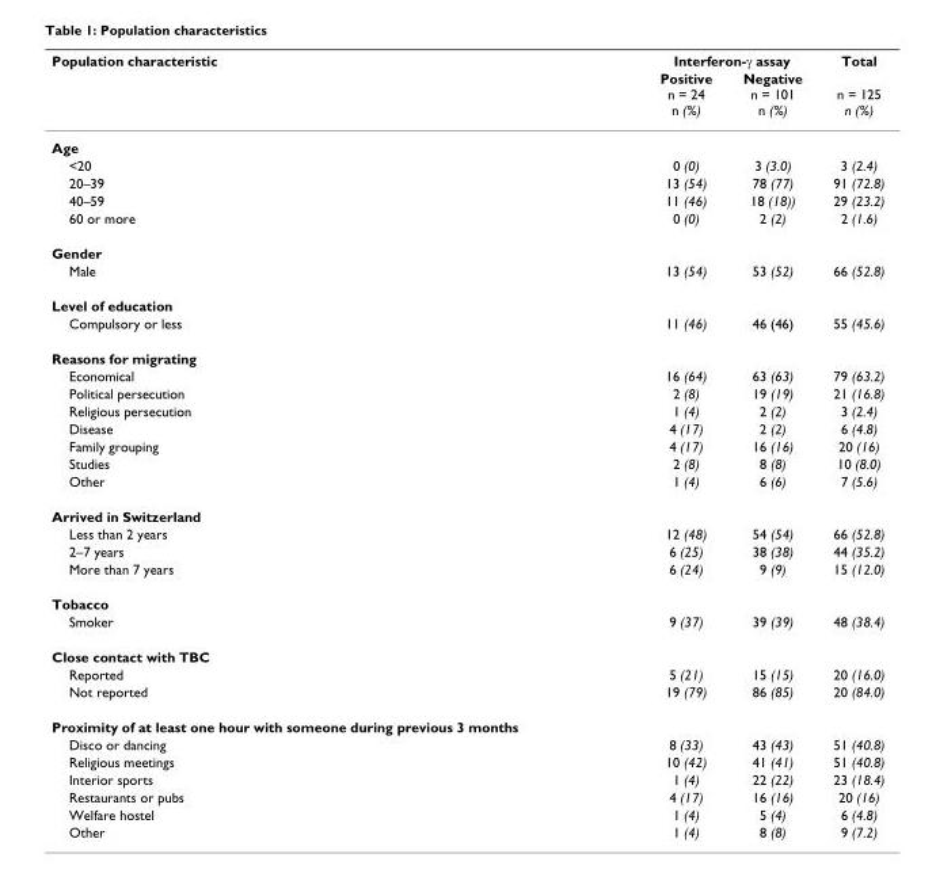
<table><thead><tr><td rowspan="2">Population characteristic</td><td colspan="2">Interferon-γ assay</td><td rowspan="2">Total n = 125 n (%)</td></tr><tr><td>Positive n = 24 n (%)</td><td>Negative n = 101 n (%)</td></tr></thead><tbody><tr><td colspan="4">Age</td></tr><tr><td>&lt;20</td><td>0 (0)</td><td>3 (3.0)</td><td>3 (2.4)</td></tr><tr><td>20–39</td><td>13 (54)</td><td>78 (77)</td><td>91 (72.8)</td></tr><tr><td>40–59</td><td>11 (46)</td><td>18 (18))</td><td>29 (23.2)</td></tr><tr><td>60 or more</td><td>0 (0)</td><td>2 (2)</td><td>2 (1.6)</td></tr><tr><td colspan="4">Gender</td></tr><tr><td>Male</td><td>13 (54)</td><td>53 (52)</td><td>66 (52.8)</td></tr><tr><td colspan="4">Level of education</td></tr><tr><td>Compulsory or less</td><td>11 (46)</td><td>46 (46)</td><td>55 (45.6)</td></tr><tr><td colspan="4">Reasons for migrating</td></tr><tr><td>Economical</td><td>16 (64)</td><td>63 (63)</td><td>79 (63.2)</td></tr><tr><td>Political persecution</td><td>2 (8)</td><td>19 (19)</td><td>21 (16.8)</td></tr><tr><td>Religious persecution</td><td>1 (4)</td><td>2 (2)</td><td>3 (2.4)</td></tr><tr><td>Disease</td><td>4 (17)</td><td>2 (2)</td><td>6 (4.8)</td></tr><tr><td>Family grouping</td><td>4 (17)</td><td>16 (16)</td><td>20 (16)</td></tr><tr><td>Studies</td><td>2 (8)</td><td>8 (8)</td><td>10 (8.0)</td></tr><tr><td>Other</td><td>1 (4)</td><td>6 (6)</td><td>7 (5.6)</td></tr><tr><td colspan="4">Arrived in Switzerland</td></tr><tr><td>Less than 2 years</td><td>12 (48)</td><td>54 (54)</td><td>66 (52.8)</td></tr><tr><td>2–7 years</td><td>6 (25)</td><td>38 (38)</td><td>44 (35.2)</td></tr><tr><td>More than 7 years</td><td>6 (24)</td><td>9 (9)</td><td>15 (12.0)</td></tr><tr><td colspan="4">Tobacco</td></tr><tr><td>Smoker</td><td>9 (37)</td><td>39 (39)</td><td>48 (38.4)</td></tr><tr><td colspan="4">Close contact with TBC</td></tr><tr><td>Reported</td><td>5 (21)</td><td>15 (15)</td><td>20 (16.0)</td></tr><tr><td>Not reported</td><td>19 (79)</td><td>86 (85)</td><td>20 (84.0)</td></tr><tr><td colspan="4">Proximity of at least one hour with someone during previous 3 months</td></tr><tr><td>Disco or dancing</td><td>8 (33)</td><td>43 (43)</td><td>51 (40.8)</td></tr><tr><td>Religious meetings</td><td>10 (42)</td><td>41 (41)</td><td>51 (40.8)</td></tr><tr><td>Interior sports</td><td>1 (4)</td><td>22 (22)</td><td>23 (18.4)</td></tr><tr><td>Restaurants or pubs</td><td>4 (17)</td><td>16 (16)</td><td>20 (16)</td></tr><tr><td>Welfare hostel</td><td>1 (4)</td><td>5 (4)</td><td>6 (4.8)</td></tr><tr><td>Other</td><td>1 (4)</td><td>8 (8)</td><td>9 (7.2)</td></tr></tbody></table>